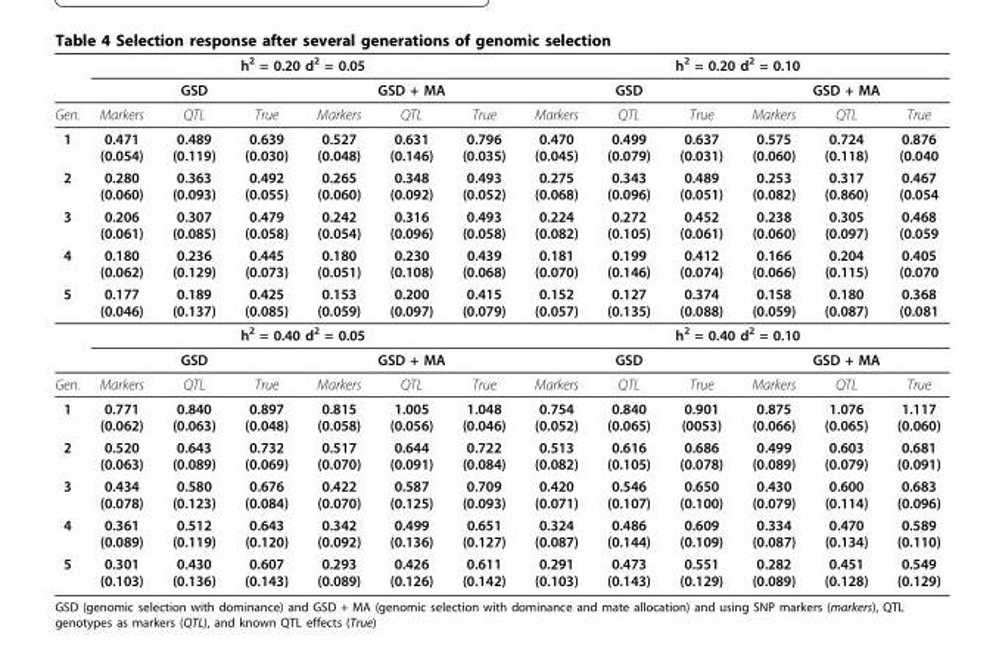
<table><thead><tr><td rowspan="3">Gen.</td><td colspan="6">h<sup>2</sup> = 0.20 d<sup>2</sup> = 0.05</td><td colspan="6">h<sup>2</sup> = 0.20 d<sup>2</sup> = 0.10</td></tr><tr><td colspan="3">GSD</td><td colspan="3">GSD + MA</td><td colspan="3">GSD</td><td colspan="3">GSD + MA</td></tr><tr><td>Markers</td><td>QTL</td><td>True</td><td>Markers</td><td>QTL</td><td>True</td><td>Markers</td><td>QTL</td><td>True</td><td>Markers</td><td>QTL</td><td>True</td></tr></thead><tbody><tr><td>1</td><td>0.471 (0.054)</td><td>0.489 (0.119)</td><td>0.639 (0.030)</td><td>0.527 (0.048)</td><td>0.631 (0.146)</td><td>0.796 (0.035)</td><td>0.470 (0.045)</td><td>0.499 (0.079)</td><td>0.637 (0.031)</td><td>0.575 (0.060)</td><td>0.724 (0.118)</td><td>0.876 (0.040</td></tr><tr><td>2</td><td>0.280 (0.060)</td><td>0.363 (0.093)</td><td>0.492 (0.055)</td><td>0.265 (0.060)</td><td>0.348 (0.092)</td><td>0.493 (0.052)</td><td>0.275 (0.068)</td><td>0.343 (0.096)</td><td>0.489 (0.051)</td><td>0.253 (0.082)</td><td>0.317 (0.860)</td><td>0.467 (0.054</td></tr><tr><td>3</td><td>0.206 (0.061)</td><td>0.307 (0.085)</td><td>0.479 (0.058)</td><td>0.242 (0.054)</td><td>0.316 (0.096)</td><td>0.493 (0.058)</td><td>0.224 (0.082)</td><td>0.272 (0.105)</td><td>0.452 (0.061)</td><td>0.238 (0.060)</td><td>0.305 (0.097)</td><td>0.468 (0.059</td></tr><tr><td>4</td><td>0.180 (0.062)</td><td>0.236 (0.129)</td><td>0.445 (0.073)</td><td>0.180 (0.051)</td><td>0.230 (0.108)</td><td>0.439 (0.068)</td><td>0.181 (0.070)</td><td>0.199 (0.146)</td><td>0.412 (0.074)</td><td>0.166 (0.066)</td><td>0.204 (0.115)</td><td>0.405 (0.070</td></tr><tr><td rowspan="3">5</td><td>0.177 (0.046)</td><td>0.189 (0.137)</td><td>0.425 (0.085)</td><td>0.153 (0.059)</td><td>0.200 (0.097)</td><td>0.415 (0.079)</td><td>0.152 (0.057)</td><td>0.127 (0.135)</td><td>0.374 (0.088)</td><td>0.158 (0.059)</td><td>0.180 (0.087)</td><td>0.368 (0.081</td></tr><tr><td colspan="6">h<sup>2</sup> = 0.40 d<sup>2</sup> = 0.05</td><td colspan="6">h<sup>2</sup> = 0.40 d<sup>2</sup> = 0.10</td></tr><tr><td colspan="3">GSD</td><td colspan="3">GSD + MA</td><td colspan="3">GSD</td><td colspan="3">GSD + MA</td></tr><tr><td>Gen.</td><td>Markers</td><td>QTL</td><td>True</td><td>Markers</td><td>QTL</td><td>True</td><td>Markers</td><td>QTL</td><td>True</td><td>Markers</td><td>QTL</td><td>True</td></tr><tr><td>1</td><td>0.771 (0.062)</td><td>0.840 (0.063)</td><td>0.897 (0.048)</td><td>0.815 (0.058)</td><td>1.005 (0.056)</td><td>1.048 (0.046)</td><td>0.754 (0.052)</td><td>0.840 (0.065)</td><td>0.901 (0053)</td><td>0.875 (0.066)</td><td>1.076 (0.065)</td><td>1.117 (0.060)</td></tr><tr><td>2</td><td>0.520 (0.063)</td><td>0.643 (0.089)</td><td>0.732 (0.069)</td><td>0.517 (0.070)</td><td>0.644 (0.091)</td><td>0.722 (0.084)</td><td>0.513 (0.082)</td><td>0.616 (0.105)</td><td>0.686 (0.078)</td><td>0.499 (0.089)</td><td>0.603 (0.079)</td><td>0.681 (0.091)</td></tr><tr><td>3</td><td>0.434 (0.078)</td><td>0.580 (0.123)</td><td>0.676 (0.084)</td><td>0.422 (0.070)</td><td>0.587 (0.125)</td><td>0.709 (0.093)</td><td>0.420 (0.071)</td><td>0.546 (0.107)</td><td>0.650 (0.100)</td><td>0.430 (0.079)</td><td>0.600 (0.114)</td><td>0.683 (0.096)</td></tr><tr><td>4</td><td>0.361 (0.089)</td><td>0.512 (0.119)</td><td>0.643 (0.120)</td><td>0.342 (0.092)</td><td>0.499 (0.136)</td><td>0.651 (0.127)</td><td>0.324 (0.087)</td><td>0.486 (0.144)</td><td>0.609 (0.109)</td><td>0.334 (0.087)</td><td>0.470 (0.134)</td><td>0.589 (0.110)</td></tr><tr><td>5</td><td>0.301 (0.103)</td><td>0.430 (0.136)</td><td>0.607 (0.143)</td><td>0.293 (0.089)</td><td>0.426 (0.126)</td><td>0.611 (0.142)</td><td>0.291 (0.103)</td><td>0.473 (0.143)</td><td>0.551 (0.129)</td><td>0.282 (0.089)</td><td>0.451 (0.128)</td><td>0.549 (0.129)</td></tr></tbody></table>